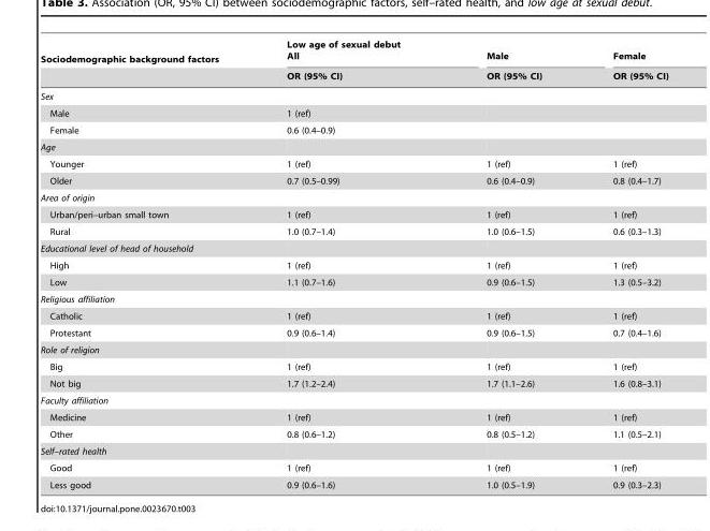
<table><thead><tr><td rowspan="2">Sociodemographic background factors</td><td rowspan="2">Low age of sexual debut All OR (95% CI)</td><td rowspan="2">Male OR (95% CI)</td><td rowspan="2">Female OR (95% CI)</td></tr><tr></tr></thead><tbody><tr><td colspan="4">Sex</td></tr><tr><td>Male</td><td>1 (ref)</td><td></td><td></td></tr><tr><td>Female</td><td>0.6 (0.4–0.9)</td><td></td><td></td></tr><tr><td colspan="4">Age</td></tr><tr><td>Younger</td><td>1 (ref)</td><td>1 (ref)</td><td>1 (ref)</td></tr><tr><td>Older</td><td>0.7 (0.5–0.99)</td><td>0.6 (0.4–0.9)</td><td>0.8 (0.4–1.7)</td></tr><tr><td colspan="4">Area of origin</td></tr><tr><td>Urban/peri–urban small town</td><td>1 (ref)</td><td>1 (ref)</td><td>1 (ref)</td></tr><tr><td>Rural</td><td>1.0 (0.7–1.4)</td><td>1.0 (0.6–1.5)</td><td>0.6 (0.3–1.3)</td></tr><tr><td colspan="4">Educational level of head of household</td></tr><tr><td>High</td><td>1 (ref)</td><td>1 (ref)</td><td>1 (ref)</td></tr><tr><td>Low</td><td>1.1 (0.7–1.6)</td><td>0.9 (0.6–1.5)</td><td>1.3 (0.5–3.2)</td></tr><tr><td colspan="4">Religious affiliation</td></tr><tr><td>Catholic</td><td>1 (ref)</td><td>1 (ref)</td><td>1 (ref)</td></tr><tr><td>Protestant</td><td>0.9 (0.6–1.4)</td><td>0.9 (0.6–1.5)</td><td>0.7 (0.4–1.6)</td></tr><tr><td colspan="4">Role of religion</td></tr><tr><td>Big</td><td>1 (ref)</td><td>1 (ref)</td><td>1 (ref)</td></tr><tr><td>Not big</td><td>1.7 (1.2–2.4)</td><td>1.7 (1.1–2.6)</td><td>1.6 (0.8–3.1)</td></tr><tr><td colspan="4">Faculty affiliation</td></tr><tr><td>Medicine</td><td>1 (ref)</td><td>1 (ref)</td><td>1 (ref)</td></tr><tr><td>Other</td><td>0.8 (0.6–1.2)</td><td>0.8 (0.5–1.2)</td><td>1.1 (0.5–2.1)</td></tr><tr><td colspan="4">Self–rated health</td></tr><tr><td>Good</td><td>1 (ref)</td><td>1 (ref)</td><td>1 (ref)</td></tr><tr><td>Less good</td><td>0.9 (0.6–1.6)</td><td>1.0 (0.5–1.9)</td><td>0.9 (0.3–2.3)</td></tr></tbody></table>